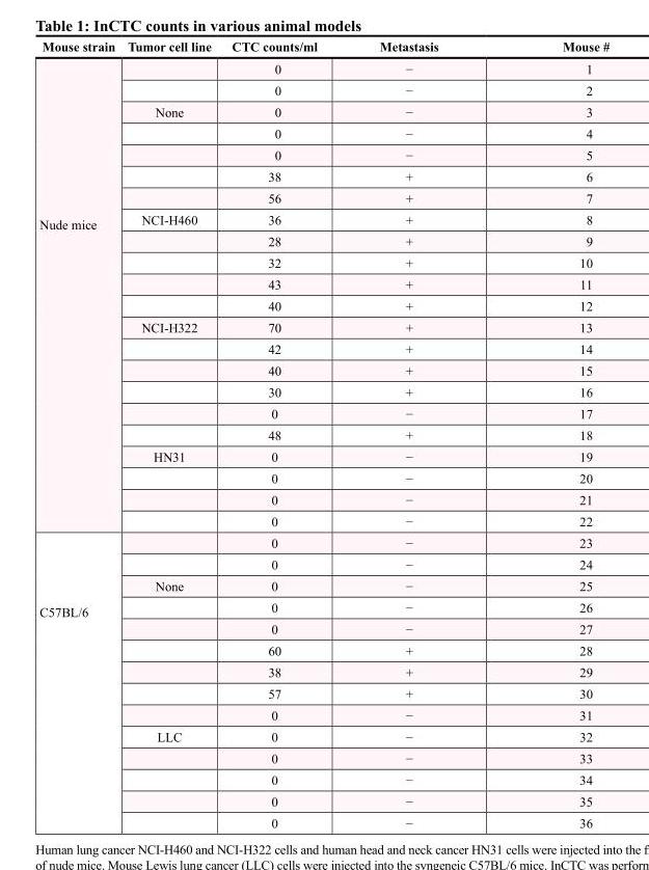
<table><thead><tr><td>Mouse strain</td><td>Tumor cell line</td><td>CTC counts/ml</td><td>Metastasis</td><td>Mouse #</td></tr></thead><tbody><tr><td rowspan="22">Nude mice</td><td></td><td>0</td><td>−</td><td>1</td></tr><tr><td></td><td>0</td><td>−</td><td>2</td></tr><tr><td>None</td><td>0</td><td>−</td><td>3</td></tr><tr><td></td><td>0</td><td>−</td><td>4</td></tr><tr><td></td><td>0</td><td>−</td><td>5</td></tr><tr><td></td><td>38</td><td>+</td><td>6</td></tr><tr><td></td><td>56</td><td>+</td><td>7</td></tr><tr><td>NCI-H460</td><td>36</td><td>+</td><td>8</td></tr><tr><td></td><td>28</td><td>+</td><td>9</td></tr><tr><td></td><td>32</td><td>+</td><td>10</td></tr><tr><td></td><td>43</td><td>+</td><td>11</td></tr><tr><td></td><td>40</td><td>+</td><td>12</td></tr><tr><td>NCI-H322</td><td>70</td><td>+</td><td>13</td></tr><tr><td></td><td>42</td><td>+</td><td>14</td></tr><tr><td></td><td>40</td><td>+</td><td>15</td></tr><tr><td></td><td>30</td><td>+</td><td>16</td></tr><tr><td></td><td>0</td><td>−</td><td>17</td></tr><tr><td></td><td>48</td><td>+</td><td>18</td></tr><tr><td>HN31</td><td>0</td><td>−</td><td>19</td></tr><tr><td></td><td>0</td><td>−</td><td>20</td></tr><tr><td></td><td>0</td><td>−</td><td>21</td></tr><tr><td></td><td>0</td><td>−</td><td>22</td></tr><tr><td rowspan="14">C57BL/6</td><td></td><td>0</td><td>−</td><td>23</td></tr><tr><td></td><td>0</td><td>−</td><td>24</td></tr><tr><td>None</td><td>0</td><td>−</td><td>25</td></tr><tr><td></td><td>0</td><td>−</td><td>26</td></tr><tr><td></td><td>0</td><td>−</td><td>27</td></tr><tr><td></td><td>60</td><td>+</td><td>28</td></tr><tr><td></td><td>38</td><td>+</td><td>29</td></tr><tr><td></td><td>57</td><td>+</td><td>30</td></tr><tr><td></td><td>0</td><td>−</td><td>31</td></tr><tr><td>LLC</td><td>0</td><td>−</td><td>32</td></tr><tr><td></td><td>0</td><td>−</td><td>33</td></tr><tr><td></td><td>0</td><td>−</td><td>34</td></tr><tr><td></td><td>0</td><td>−</td><td>35</td></tr><tr><td></td><td>0</td><td>−</td><td>36</td></tr></tbody></table>